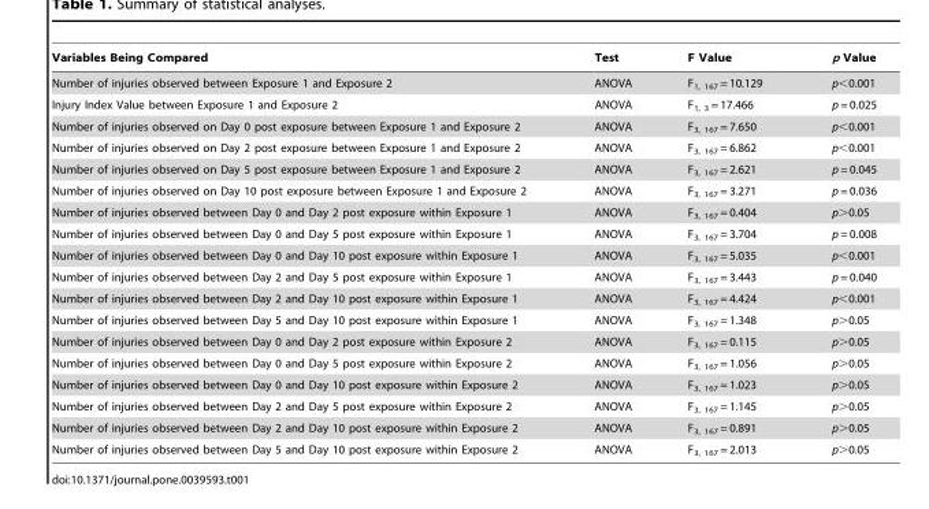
<table><thead><tr><td>Variables Being Compared</td><td>Test</td><td>F Value</td><td>p Value</td></tr></thead><tbody><tr><td>Number of injuries observed between Exposure 1 and Exposure 2</td><td>ANOVA</td><td>F<sub>1, 167</sub> = 10.129</td><td>p&lt;0.001</td></tr><tr><td>Injury Index Value between Exposure 1 and Exposure 2</td><td>ANOVA</td><td>F<sub>1, 3</sub> = 17.466</td><td>p = 0.025</td></tr><tr><td>Number of injuries observed on Day 0 post exposure between Exposure 1 and Exposure 2</td><td>ANOVA</td><td>F<sub>3, 167</sub> = 7.650</td><td>p&lt;0.001</td></tr><tr><td>Number of injuries observed on Day 2 post exposure between Exposure 1 and Exposure 2</td><td>ANOVA</td><td>F<sub>3, 167</sub> = 6.862</td><td>p&lt;0.001</td></tr><tr><td>Number of injuries observed on Day 5 post exposure between Exposure 1 and Exposure 2</td><td>ANOVA</td><td>F<sub>3, 167</sub> = 2.621</td><td>p = 0.045</td></tr><tr><td>Number of injuries observed on Day 10 post exposure between Exposure 1 and Exposure 2</td><td>ANOVA</td><td>F<sub>3, 167</sub> = 3.271</td><td>p = 0.036</td></tr><tr><td>Number of injuries observed between Day 0 and Day 2 post exposure within Exposure 1</td><td>ANOVA</td><td>F<sub>3, 167</sub> = 0.404</td><td>p&gt;0.05</td></tr><tr><td>Number of injuries observed between Day 0 and Day 5 post exposure within Exposure 1</td><td>ANOVA</td><td>F<sub>3, 167</sub> = 3.704</td><td>p = 0.008</td></tr><tr><td>Number of injuries observed between Day 0 and Day 10 post exposure within Exposure 1</td><td>ANOVA</td><td>F<sub>3, 167</sub> = 5.035</td><td>p&lt;0.001</td></tr><tr><td>Number of injuries observed between Day 2 and Day 5 post exposure within Exposure 1</td><td>ANOVA</td><td>F<sub>3, 167</sub> = 3.443</td><td>p = 0.040</td></tr><tr><td>Number of injuries observed between Day 2 and Day 10 post exposure within Exposure 1</td><td>ANOVA</td><td>F<sub>3, 167</sub> = 4.424</td><td>p&lt;0.001</td></tr><tr><td>Number of injuries observed between Day 5 and Day 10 post exposure within Exposure 1</td><td>ANOVA</td><td>F<sub>3, 167</sub> = 1.348</td><td>p&gt;0.05</td></tr><tr><td>Number of injuries observed between Day 0 and Day 2 post exposure within Exposure 2</td><td>ANOVA</td><td>F<sub>3, 167</sub> = 0.115</td><td>p&gt;0.05</td></tr><tr><td>Number of injuries observed between Day 0 and Day 5 post exposure within Exposure 2</td><td>ANOVA</td><td>F<sub>3, 167</sub> = 1.056</td><td>p&gt;0.05</td></tr><tr><td>Number of injuries observed between Day 0 and Day 10 post exposure within Exposure 2</td><td>ANOVA</td><td>F<sub>3, 167</sub> = 1.023</td><td>p&gt;0.05</td></tr><tr><td>Number of injuries observed between Day 2 and Day 5 post exposure within Exposure 2</td><td>ANOVA</td><td>F<sub>3, 167</sub> = 1.145</td><td>p&gt;0.05</td></tr><tr><td>Number of injuries observed between Day 2 and Day 10 post exposure within Exposure 2</td><td>ANOVA</td><td>F<sub>3, 167</sub> = 0.891</td><td>p&gt;0.05</td></tr><tr><td>Number of injuries observed between Day 5 and Day 10 post exposure within Exposure 2</td><td>ANOVA</td><td>F<sub>3, 167</sub> = 2.013</td><td>p&gt;0.05</td></tr></tbody></table>